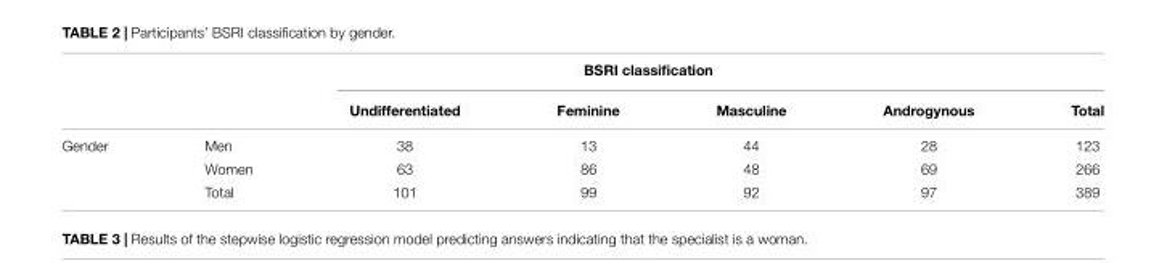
<table><thead><tr><td rowspan="2"></td><td rowspan="2"></td><td colspan="4">BSRI classification</td><td rowspan="2">Total</td></tr><tr><td>Undifferentiated</td><td>Feminine</td><td>Masculine</td><td>Androgynous</td></tr></thead><tbody><tr><td rowspan="3">Gender</td><td>Men</td><td>38</td><td>13</td><td>44</td><td>28</td><td>123</td></tr><tr><td>Women</td><td>63</td><td>86</td><td>48</td><td>69</td><td>266</td></tr><tr><td>Total</td><td>101</td><td>99</td><td>92</td><td>97</td><td>389</td></tr></tbody></table>